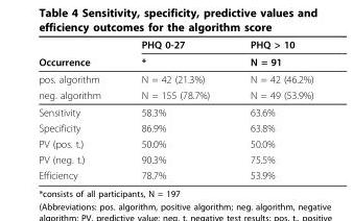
<table><thead><tr><td rowspan="2">Occurrence</td><td rowspan="2">PHQ 0-27 *</td><td rowspan="2">PHQ &gt; 10 N = 91</td></tr><tr></tr></thead><tbody><tr><td>pos. algorithm</td><td>N = 42 (21.3%)</td><td>N = 42 (46.2%)</td></tr><tr><td>neg. algorithm</td><td>N = 155 (78.7%)</td><td>N = 49 (53.9%)</td></tr><tr><td>Sensitivity</td><td>58.3%</td><td>63.6%</td></tr><tr><td>Specificity</td><td>86.9%</td><td>63.8%</td></tr><tr><td>PV (pos. t.)</td><td>50.0%</td><td>50.0%</td></tr><tr><td>PV (neg. t.)</td><td>90.3%</td><td>75.5%</td></tr><tr><td>Efficiency</td><td>78.7%</td><td>53.9%</td></tr></tbody></table>